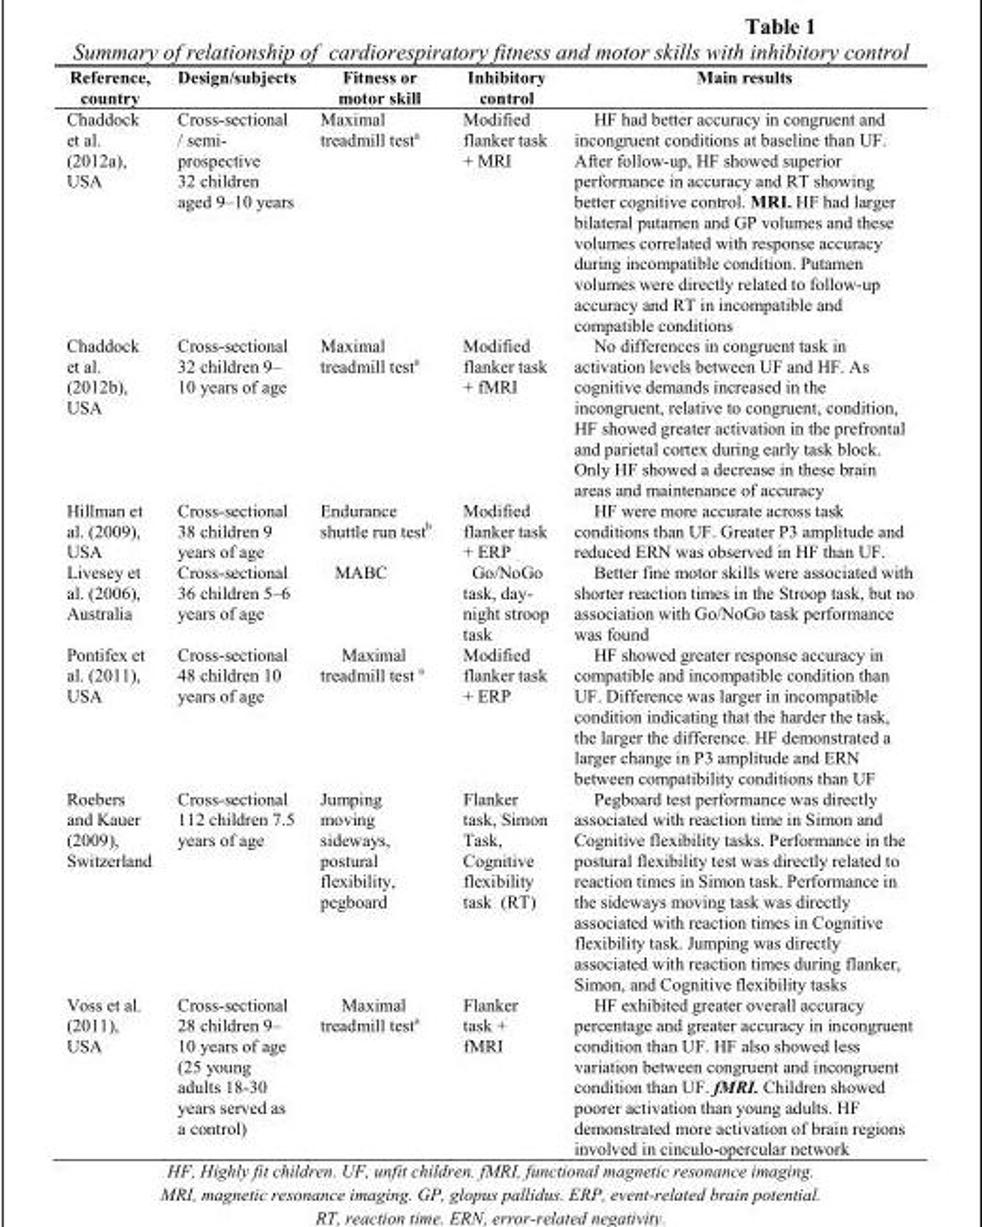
<table><thead><tr><td>Reference, country</td><td>Design/subjects</td><td>Fitness or motor skill</td><td>Inhibitory control</td><td>Main results</td></tr></thead><tbody><tr><td>Chaddock et al. (2012a), USA</td><td>Cross-sectional / semi- prospective 32 children aged 9–10 years</td><td>Maximal treadmill test<sup>a</sup></td><td>Modified flanker task + MRI</td><td>HF had better accuracy in congruent and incongruent conditions at baseline than UF. After follow-up, HF showed superior performance in accuracy and RT showing better cognitive control. MRI. HF had larger bilateral putamen and GP volumes and these volumes correlated with response accuracy during incompatible condition. Putamen volumes were directly related to follow-up accuracy and RT in incompatible and compatible conditions</td></tr><tr><td>Chaddock et al. (2012b), USA</td><td>Cross-sectional 32 children 9– 10 years of age</td><td>Maximal treadmill test<sup>a</sup></td><td>Modified flanker task + fMRI</td><td>No differences in congruent task in activation levels between UF and HF. As cognitive demands increased in the incongruent, relative to congruent, condition, HF showed greater activation in the prefrontal and parietal cortex during early task block. Only HF showed a decrease in these brain areas and maintenance of accuracy</td></tr><tr><td>Hillman et al. (2009), USA</td><td>Cross-sectional 38 children 9 years of age</td><td>Endurance shuttle run test<sup>b</sup></td><td>Modified flanker task + ERP</td><td>HF were more accurate across task conditions than UF. Greater P3 amplitude and reduced ERN was observed in HF than UF.</td></tr><tr><td>Livesey et al. (2006), Australia</td><td>Cross-sectional 36 children 5–6 years of age</td><td>MABC</td><td>Go/NoGo task, day- night stroop task</td><td>Better fine motor skills were associated with shorter reaction times in the Stroop task, but no association with Go/NoGo task performance was found</td></tr><tr><td>Pontifex et al. (2011), USA</td><td>Cross-sectional 48 children 10 years of age</td><td>Maximal treadmill test <sup>a</sup></td><td>Modified flanker task + ERP</td><td>HF showed greater response accuracy in compatible and incompatible condition than UF. Difference was larger in incompatible condition indicating that the harder the task, the larger the difference. HF demonstrated a larger change in P3 amplitude and ERN between compatibility conditions than UF</td></tr><tr><td>Roebers and Kauer (2009), Switzerland</td><td>Cross-sectional 112 children 7.5 years of age</td><td>Jumping moving sideways, postural flexibility, pegboard</td><td>Flanker task, Simon Task, Cognitive flexibility task (RT)</td><td>Pegboard test performance was directly associated with reaction time in Simon and Cognitive flexibility tasks. Performance in the postural flexibility test was directly related to reaction times in Simon task. Performance in the sideways moving task was directly associated with reaction times in Cognitive flexibility task. Jumping was directly associated with reaction times during flanker, Simon, and Cognitive flexibility tasks</td></tr><tr><td>Voss et al. (2011), USA</td><td>Cross-sectional 28 children 9– 10 years of age (25 young adults 18-30 years served as a control)</td><td>Maximal treadmill test<sup>a</sup></td><td>Flanker task + fMRI</td><td>HF exhibited greater overall accuracy percentage and greater accuracy in incongruent condition than UF. HF also showed less variation between congruent and incongruent condition than UF. fMRI. Children showed poorer activation than young adults. HF demonstrated more activation of brain regions involved in cinculo-opercular network</td></tr></tbody></table>